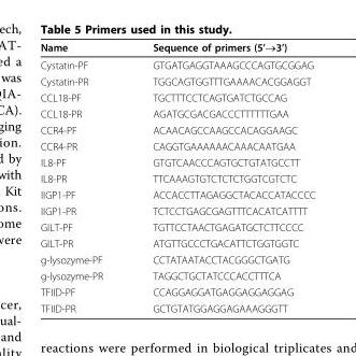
<table><thead><tr><td>Name</td><td>Sequence of primers (5’→3’)</td></tr></thead><tbody><tr><td>Cystatin-PF</td><td>GTGATGAGGTAAAGCCCAGTGCGGAG</td></tr><tr><td>Cystatin-PR</td><td>TGGCAGTGGTTTGAAAACACGGAGGT</td></tr><tr><td>CCL18-PF</td><td>TGCTTTCCTCAGTGATCTGCCAG</td></tr><tr><td>CCL18-PR</td><td>AGATGCGACGACCCTTTTTTGAA</td></tr><tr><td>CCR4-PF</td><td>ACAACAGCCAAGCCACAGGAAGC</td></tr><tr><td>CCR4-PR</td><td>CAGGTGAAAAAACAAACAATGAA</td></tr><tr><td>IL8-PF</td><td>GTGTCAACCCAGTGCTGTATGCCTT</td></tr><tr><td>IL8-PR</td><td>TTCAAAGTGTCTCTCTGGTCGTCTC</td></tr><tr><td>IIGP1-PF</td><td>ACCACCTTAGAGGCTACACCATACCCC</td></tr><tr><td>IIGP1-PR</td><td>TCTCCTGAGCGAGTTTCACATCATTTT</td></tr><tr><td>GILT-PF</td><td>TGTTCCTAACTGAGATGCTCTTCCCC</td></tr><tr><td>GILT-PR</td><td>ATGTTGCCCTGACATTCTGGTGGTC</td></tr><tr><td>g-lysozyme-PF</td><td>CCTATAATACCTACGGGCTGATG</td></tr><tr><td>g-lysozyme-PR</td><td>TAGGCTGCTATCCCACCTTTCA</td></tr><tr><td>TFIID-PF</td><td>CCAGGAGGATGAGGAGGAGGAG</td></tr><tr><td>TFIID-PR</td><td>GCTGTATGGAGGAGAAAGGGTT</td></tr></tbody></table>